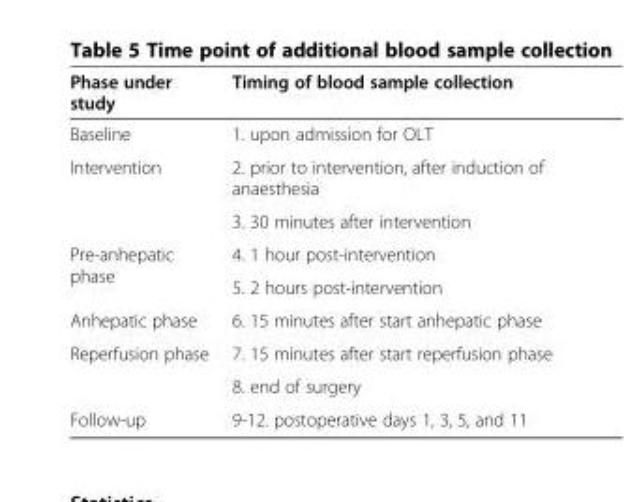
<table><thead><tr><td>Phase under study</td><td>Timing of blood sample collection</td></tr></thead><tbody><tr><td>Baseline</td><td>1. upon admission for OLT</td></tr><tr><td rowspan="2">Intervention</td><td>2. prior to intervention, after induction of anaesthesia</td></tr><tr><td>3. 30 minutes after intervention</td></tr><tr><td rowspan="2">Pre-anhepatic phase</td><td>4. 1 hour post-intervention</td></tr><tr><td>5. 2 hours post-intervention</td></tr><tr><td>Anhepatic phase</td><td>6. 15 minutes after start anhepatic phase</td></tr><tr><td rowspan="2">Reperfusion phase</td><td>7. 15 minutes after start reperfusion phase</td></tr><tr><td>8. end of surgery</td></tr><tr><td>Follow-up</td><td>9-12. postoperative days 1, 3, 5, and 11</td></tr></tbody></table>